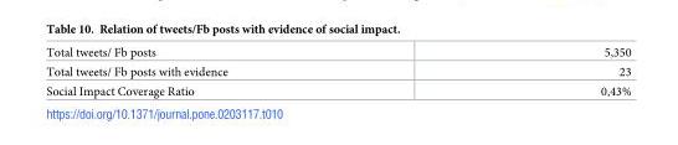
<table><tbody><tr><td>Total tweets/ Fb posts</td><td>5,350</td></tr><tr><td>Total tweets/ Fb posts with evidence</td><td>23</td></tr><tr><td>Social Impact Coverage Ratio</td><td>0,43%</td></tr></tbody></table>